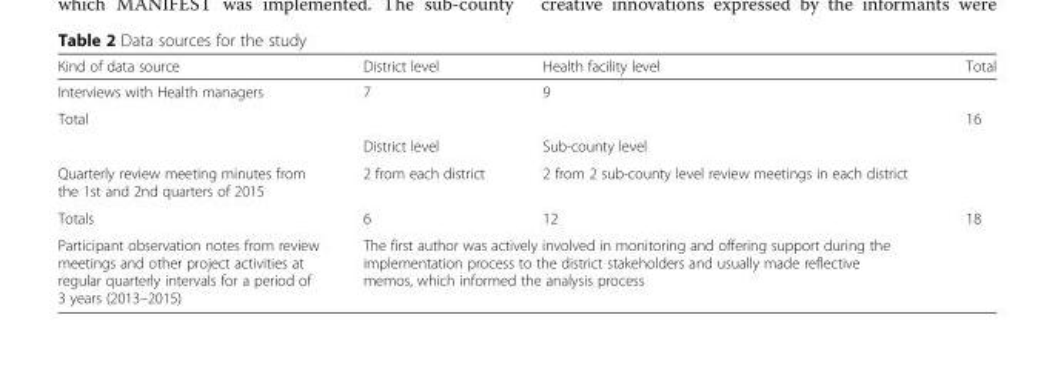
<table><thead><tr><td>Kind of data source</td><td>District level</td><td>Health facility level</td><td>Total</td></tr></thead><tbody><tr><td>Interviews with Health managers</td><td>7</td><td>9</td><td></td></tr><tr><td rowspan="2">Total</td><td></td><td></td><td>16</td></tr><tr><td>District level</td><td>Sub-county level</td><td></td></tr><tr><td>Quarterly review meeting minutes from the 1st and 2nd quarters of 2015</td><td>2 from each district</td><td>2 from 2 sub-county level review meetings in each district</td><td></td></tr><tr><td>Totals</td><td>6</td><td>12</td><td>18</td></tr><tr><td>Participant observation notes from review meetings and other project activities at regular quarterly intervals for a period of 3 years (2013–2015)</td><td colspan="2">The first author was actively involved in monitoring and offering support during the implementation process to the district stakeholders and usually made reflective memos, which informed the analysis process</td><td></td></tr></tbody></table>